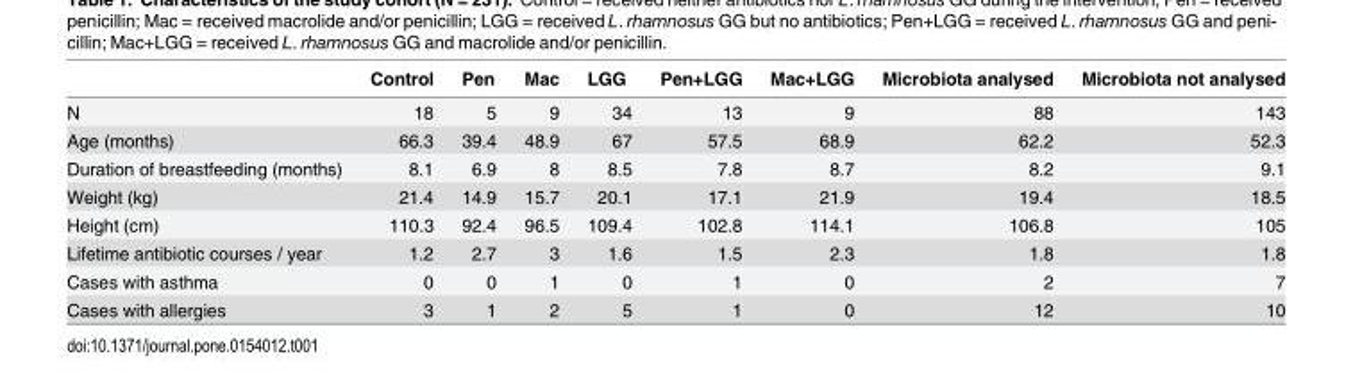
<table><thead><tr><td></td><td>Control</td><td>Pen</td><td>Mac</td><td>LGG</td><td>Pen+LGG</td><td>Mac+LGG</td><td>Microbiota analysed</td><td>Microbiota not analysed</td></tr></thead><tbody><tr><td>N</td><td>18</td><td>5</td><td>9</td><td>34</td><td>13</td><td>9</td><td>88</td><td>143</td></tr><tr><td>Age (months)</td><td>66.3</td><td>39.4</td><td>48.9</td><td>67</td><td>57.5</td><td>68.9</td><td>62.2</td><td>52.3</td></tr><tr><td>Duration of breastfeeding (months)</td><td>8.1</td><td>6.9</td><td>8</td><td>8.5</td><td>7.8</td><td>8.7</td><td>8.2</td><td>9.1</td></tr><tr><td>Weight (kg)</td><td>21.4</td><td>14.9</td><td>15.7</td><td>20.1</td><td>17.1</td><td>21.9</td><td>19.4</td><td>18.5</td></tr><tr><td>Height (cm)</td><td>110.3</td><td>92.4</td><td>96.5</td><td>109.4</td><td>102.8</td><td>114.1</td><td>106.8</td><td>105</td></tr><tr><td>Lifetime antibiotic courses / year</td><td>1.2</td><td>2.7</td><td>3</td><td>1.6</td><td>1.5</td><td>2.3</td><td>1.8</td><td>1.8</td></tr><tr><td>Cases with asthma</td><td>0</td><td>0</td><td>1</td><td>0</td><td>1</td><td>0</td><td>2</td><td>7</td></tr><tr><td>Cases with allergies</td><td>3</td><td>1</td><td>2</td><td>5</td><td>1</td><td>0</td><td>12</td><td>10</td></tr></tbody></table>